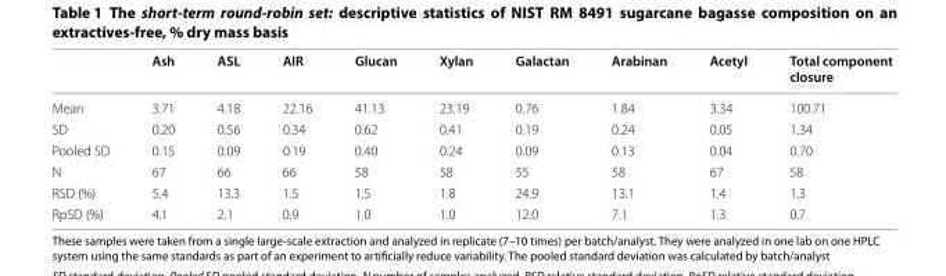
<table><thead><tr><td></td><td>Ash</td><td>ASL</td><td>AIR</td><td>Glucan</td><td>Xylan</td><td>Galactan</td><td>Arabinan</td><td>Acetyl</td><td>Total component closure</td></tr></thead><tbody><tr><td>Mean</td><td>3.71</td><td>4.18</td><td>22.16</td><td>41.13</td><td>23.19</td><td>0.76</td><td>1.84</td><td>3.34</td><td>100.71</td></tr><tr><td>SD</td><td>0.20</td><td>0.56</td><td>0.34</td><td>0.62</td><td>0.41</td><td>0.19</td><td>0.24</td><td>0.05</td><td>1.34</td></tr><tr><td>Pooled SD</td><td>0.15</td><td>0.09</td><td>0.19</td><td>0.40</td><td>0.24</td><td>0.09</td><td>0.13</td><td>0.04</td><td>0.70</td></tr><tr><td>N</td><td>67</td><td>66</td><td>66</td><td>58</td><td>58</td><td>55</td><td>58</td><td>67</td><td>58</td></tr><tr><td>RSD (%)</td><td>5.4</td><td>13.3</td><td>1.5</td><td>1.5</td><td>1.8</td><td>24.9</td><td>13.1</td><td>1.4</td><td>1.3</td></tr><tr><td>RpSD (%)</td><td>4.1</td><td>2.1</td><td>0.9</td><td>1.0</td><td>1.0</td><td>12.0</td><td>7.1</td><td>1.3</td><td>0.7</td></tr></tbody></table>